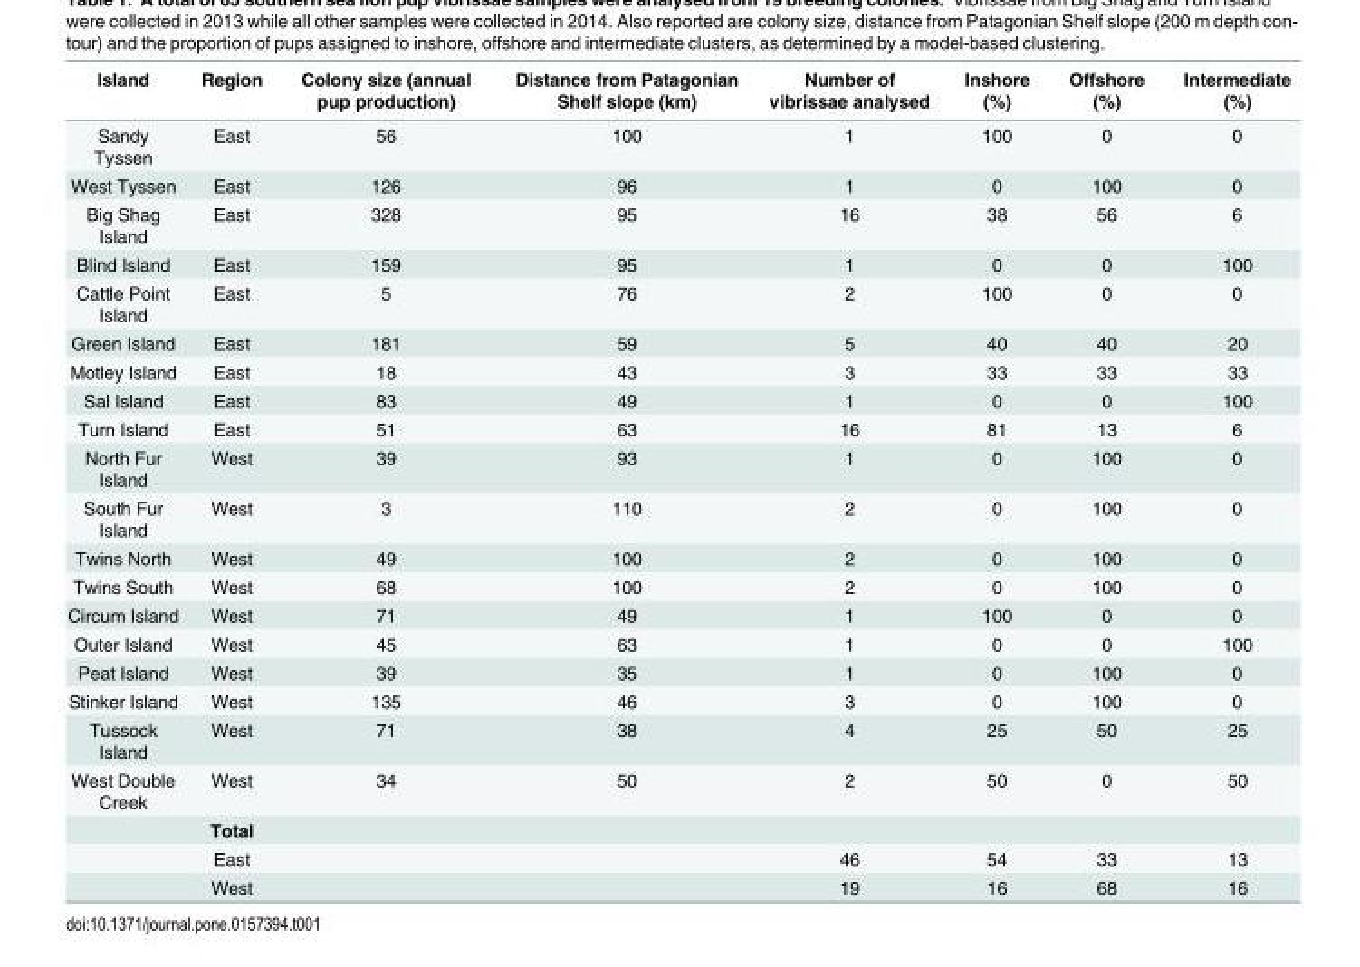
<table><thead><tr><td>Island</td><td>Region</td><td>Colony size (annual pup production)</td><td>Distance from Patagonian Shelf slope (km)</td><td>Number of vibrissae analysed</td><td>Inshore (%)</td><td>Offshore (%)</td><td>Intermediate (%)</td></tr></thead><tbody><tr><td>Sandy Tyssen</td><td>East</td><td>56</td><td>100</td><td>1</td><td>100</td><td>0</td><td>0</td></tr><tr><td>West Tyssen</td><td>East</td><td>126</td><td>96</td><td>1</td><td>0</td><td>100</td><td>0</td></tr><tr><td>Big Shag Island</td><td>East</td><td>328</td><td>95</td><td>16</td><td>38</td><td>56</td><td>6</td></tr><tr><td>Blind Island</td><td>East</td><td>159</td><td>95</td><td>1</td><td>0</td><td>0</td><td>100</td></tr><tr><td>Cattle Point Island</td><td>East</td><td>5</td><td>76</td><td>2</td><td>100</td><td>0</td><td>0</td></tr><tr><td>Green Island</td><td>East</td><td>181</td><td>59</td><td>5</td><td>40</td><td>40</td><td>20</td></tr><tr><td>Motley Island</td><td>East</td><td>18</td><td>43</td><td>3</td><td>33</td><td>33</td><td>33</td></tr><tr><td>Sal Island</td><td>East</td><td>83</td><td>49</td><td>1</td><td>0</td><td>0</td><td>100</td></tr><tr><td>Turn Island</td><td>East</td><td>51</td><td>63</td><td>16</td><td>81</td><td>13</td><td>6</td></tr><tr><td>North Fur Island</td><td>West</td><td>39</td><td>93</td><td>1</td><td>0</td><td>100</td><td>0</td></tr><tr><td>South Fur Island</td><td>West</td><td>3</td><td>110</td><td>2</td><td>0</td><td>100</td><td>0</td></tr><tr><td>Twins North</td><td>West</td><td>49</td><td>100</td><td>2</td><td>0</td><td>100</td><td>0</td></tr><tr><td>Twins South</td><td>West</td><td>68</td><td>100</td><td>2</td><td>0</td><td>100</td><td>0</td></tr><tr><td>Circum Island</td><td>West</td><td>71</td><td>49</td><td>1</td><td>100</td><td>0</td><td>0</td></tr><tr><td>Outer Island</td><td>West</td><td>45</td><td>63</td><td>1</td><td>0</td><td>0</td><td>100</td></tr><tr><td>Peat Island</td><td>West</td><td>39</td><td>35</td><td>1</td><td>0</td><td>100</td><td>0</td></tr><tr><td>Stinker Island</td><td>West</td><td>135</td><td>46</td><td>3</td><td>0</td><td>100</td><td>0</td></tr><tr><td>Tussock Island</td><td>West</td><td>71</td><td>38</td><td>4</td><td>25</td><td>50</td><td>25</td></tr><tr><td rowspan="4">West Double Creek</td><td>West</td><td>34</td><td>50</td><td>2</td><td>50</td><td>0</td><td>50</td></tr><tr><td>Total</td><td></td><td></td><td></td><td></td><td></td><td></td></tr><tr><td>East</td><td></td><td></td><td>46</td><td>54</td><td>33</td><td>13</td></tr><tr><td>West</td><td></td><td></td><td>19</td><td>16</td><td>68</td><td>16</td></tr></tbody></table>